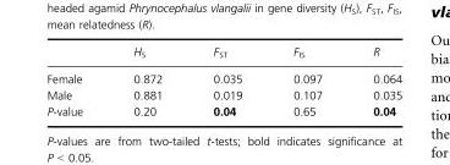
<table><thead><tr><td></td><td>H<sub>S</sub></td><td>F<sub>ST</sub></td><td>F<sub>IS</sub></td><td>R</td></tr></thead><tbody><tr><td>Female</td><td>0.872</td><td>0.035</td><td>0.097</td><td>0.064</td></tr><tr><td>Male</td><td>0.881</td><td>0.019</td><td>0.107</td><td>0.035</td></tr><tr><td>P-value</td><td>0.20</td><td>0.04</td><td>0.65</td><td>0.04</td></tr></tbody></table>